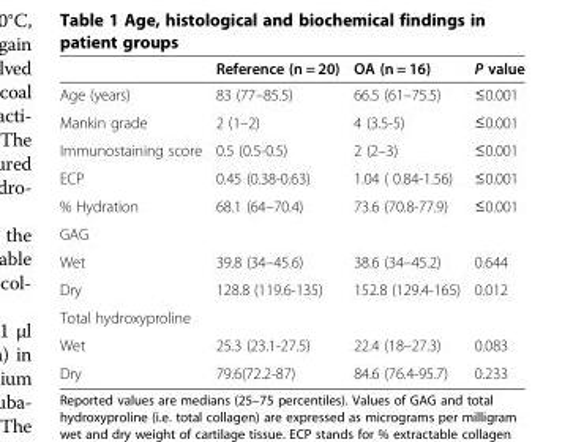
<table><thead><tr><td></td><td>Reference (n = 20)</td><td>OA (n = 16)</td><td>P value</td></tr></thead><tbody><tr><td>Age (years)</td><td>83 (77–85.5)</td><td>66.5 (61–75.5)</td><td>≤0.001</td></tr><tr><td>Mankin grade</td><td>2 (1–2)</td><td>4 (3.5-5)</td><td>≤0.001</td></tr><tr><td>Immunostaining score</td><td>0.5 (0.5-0.5)</td><td>2 (2–3)</td><td>≤0.001</td></tr><tr><td>ECP</td><td>0.45 (0.38-0.63)</td><td>1.04 ( 0.84-1.56)</td><td>≤0.001</td></tr><tr><td>% Hydration</td><td>68.1 (64–70.4)</td><td>73.6 (70.8-77.9)</td><td>≤0.001</td></tr><tr><td colspan="4">GAG</td></tr><tr><td>Wet</td><td>39.8 (34–45.6)</td><td>38.6 (34–45.2)</td><td>0.644</td></tr><tr><td>Dry</td><td>128.8 (119.6-135)</td><td>152.8 (129.4-165)</td><td>0.012</td></tr><tr><td colspan="4">Total hydroxyproline</td></tr><tr><td>Wet</td><td>25.3 (23.1-27.5)</td><td>22.4 (18–27.3)</td><td>0.083</td></tr><tr><td>Dry</td><td>79.6(72.2-87)</td><td>84.6 (76.4-95.7)</td><td>0.233</td></tr></tbody></table>